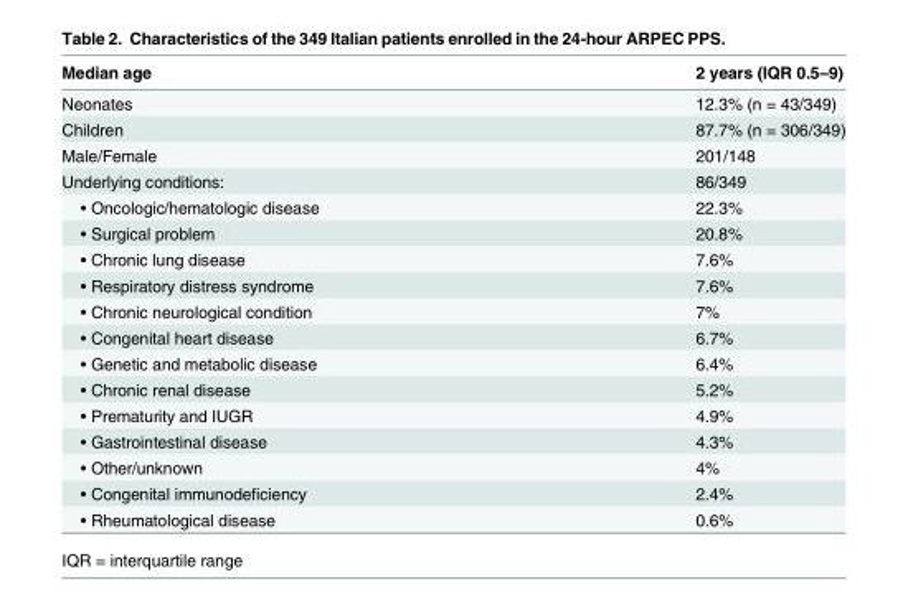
<table><thead><tr><td>Median age</td><td>2 years (IQR 0.5–9)</td></tr></thead><tbody><tr><td>Neonates</td><td>12.3% (n = 43/349)</td></tr><tr><td>Children</td><td>87.7% (n = 306/349)</td></tr><tr><td>Male/Female</td><td>201/148</td></tr><tr><td>Underlying conditions:</td><td>86/349</td></tr><tr><td>• Oncologic/hematologic disease</td><td>22.3%</td></tr><tr><td>• Surgical problem</td><td>20.8%</td></tr><tr><td>• Chronic lung disease</td><td>7.6%</td></tr><tr><td>• Respiratory distress syndrome</td><td>7.6%</td></tr><tr><td>• Chronic neurological condition</td><td>7%</td></tr><tr><td>• Congenital heart disease</td><td>6.7%</td></tr><tr><td>• Genetic and metabolic disease</td><td>6.4%</td></tr><tr><td>• Chronic renal disease</td><td>5.2%</td></tr><tr><td>• Prematurity and IUGR</td><td>4.9%</td></tr><tr><td>• Gastrointestinal disease</td><td>4.3%</td></tr><tr><td>• Other/unknown</td><td>4%</td></tr><tr><td>• Congenital immunodeficiency</td><td>2.4%</td></tr><tr><td>• Rheumatological disease</td><td>0.6%</td></tr></tbody></table>